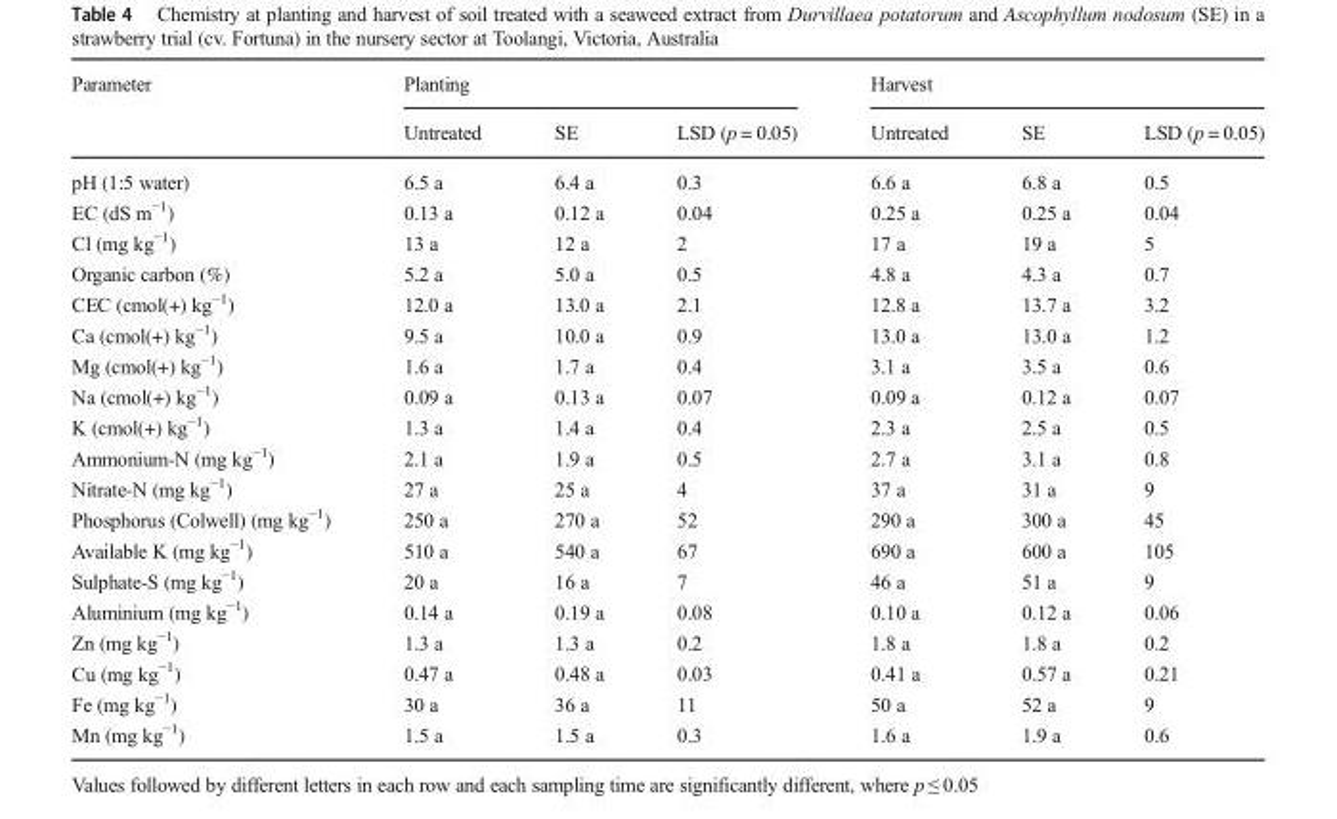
<table><thead><tr><td rowspan="2">Parameter</td><td colspan="3">Planting</td><td colspan="3">Harvest</td></tr><tr><td>Untreated</td><td>SE</td><td>LSD (p = 0.05)</td><td>Untreated</td><td>SE</td><td>LSD (p = 0.05)</td></tr></thead><tbody><tr><td>pH (1:5 water)</td><td>6.5 a</td><td>6.4 a</td><td>0.3</td><td>6.6 a</td><td>6.8 a</td><td>0.5</td></tr><tr><td>EC (dS m<sup>−1</sup>)</td><td>0.13 a</td><td>0.12 a</td><td>0.04</td><td>0.25 a</td><td>0.25 a</td><td>0.04</td></tr><tr><td>Cl (mg kg<sup>−1</sup>)</td><td>13 a</td><td>12 a</td><td>2</td><td>17 a</td><td>19 a</td><td>5</td></tr><tr><td>Organic carbon (%)</td><td>5.2 a</td><td>5.0 a</td><td>0.5</td><td>4.8 a</td><td>4.3 a</td><td>0.7</td></tr><tr><td>CEC (cmol(+) kg<sup>−1</sup>)</td><td>12.0 a</td><td>13.0 a</td><td>2.1</td><td>12.8 a</td><td>13.7 a</td><td>3.2</td></tr><tr><td>Ca (cmol(+) kg<sup>−1</sup>)</td><td>9.5 a</td><td>10.0 a</td><td>0.9</td><td>13.0 a</td><td>13.0 a</td><td>1.2</td></tr><tr><td>Mg (cmol(+) kg<sup>−1</sup>)</td><td>1.6 a</td><td>1.7 a</td><td>0.4</td><td>3.1 a</td><td>3.5 a</td><td>0.6</td></tr><tr><td>Na (cmol(+) kg<sup>−1</sup>)</td><td>0.09 a</td><td>0.13 a</td><td>0.07</td><td>0.09 a</td><td>0.12 a</td><td>0.07</td></tr><tr><td>K (cmol(+) kg<sup>−1</sup>)</td><td>1.3 a</td><td>1.4 a</td><td>0.4</td><td>2.3 a</td><td>2.5 a</td><td>0.5</td></tr><tr><td>Ammonium-N (mg kg<sup>−1</sup>)</td><td>2.1 a</td><td>1.9 a</td><td>0.5</td><td>2.7 a</td><td>3.1 a</td><td>0.8</td></tr><tr><td>Nitrate-N (mg kg<sup>−1</sup>)</td><td>27 a</td><td>25 a</td><td>4</td><td>37 a</td><td>31 a</td><td>9</td></tr><tr><td>Phosphorus (Colwell) (mg kg<sup>−1</sup>)</td><td>250 a</td><td>270 a</td><td>52</td><td>290 a</td><td>300 a</td><td>45</td></tr><tr><td>Available K (mg kg<sup>−1</sup>)</td><td>510 a</td><td>540 a</td><td>67</td><td>690 a</td><td>600 a</td><td>105</td></tr><tr><td>Sulphate-S (mg kg<sup>−1</sup>)</td><td>20 a</td><td>16 a</td><td>7</td><td>46 a</td><td>51 a</td><td>9</td></tr><tr><td>Aluminium (mg kg<sup>−1</sup>)</td><td>0.14 a</td><td>0.19 a</td><td>0.08</td><td>0.10 a</td><td>0.12 a</td><td>0.06</td></tr><tr><td>Zn (mg kg<sup>−1</sup>)</td><td>1.3 a</td><td>1.3 a</td><td>0.2</td><td>1.8 a</td><td>1.8 a</td><td>0.2</td></tr><tr><td>Cu (mg kg<sup>−1</sup>)</td><td>0.47 a</td><td>0.48 a</td><td>0.03</td><td>0.41 a</td><td>0.57 a</td><td>0.21</td></tr><tr><td>Fe (mg kg<sup>−1</sup>)</td><td>30 a</td><td>36 a</td><td>11</td><td>50 a</td><td>52 a</td><td>9</td></tr><tr><td>Mn (mg kg<sup>−1</sup>)</td><td>1.5 a</td><td>1.5 a</td><td>0.3</td><td>1.6 a</td><td>1.9 a</td><td>0.6</td></tr></tbody></table>